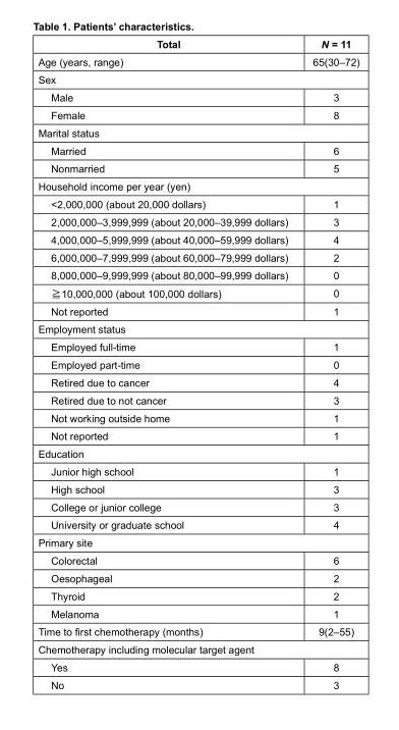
<table><thead><tr><td>Total</td><td>N = 11</td></tr></thead><tbody><tr><td>Age (years, range)</td><td>65(30–72)</td></tr><tr><td colspan="2">Sex</td></tr><tr><td>Male</td><td>3</td></tr><tr><td>Female</td><td>8</td></tr><tr><td colspan="2">Marital status</td></tr><tr><td>Married</td><td>6</td></tr><tr><td>Nonmarried</td><td>5</td></tr><tr><td colspan="2">Household income per year (yen)</td></tr><tr><td>&lt;2,000,000 (about 20,000 dollars)</td><td>1</td></tr><tr><td>2,000,000–3,999,999 (about 20,000–39,999 dollars)</td><td>3</td></tr><tr><td>4,000,000–5,999,999 (about 40,000–59,999 dollars)</td><td>4</td></tr><tr><td>6,000,000–7,999,999 (about 60,000–79,999 dollars)</td><td>2</td></tr><tr><td>8,000,000–9,999,999 (about 80,000–99,999 dollars)</td><td>0</td></tr><tr><td>≧10,000,000 (about 100,000 dollars)</td><td>0</td></tr><tr><td>Not reported</td><td>1</td></tr><tr><td colspan="2">Employment status</td></tr><tr><td>Employed full-time</td><td>1</td></tr><tr><td>Employed part-time</td><td>0</td></tr><tr><td>Retired due to cancer</td><td>4</td></tr><tr><td>Retired due to not cancer</td><td>3</td></tr><tr><td>Not working outside home</td><td>1</td></tr><tr><td>Not reported</td><td>1</td></tr><tr><td colspan="2">Education</td></tr><tr><td>Junior high school</td><td>1</td></tr><tr><td>High school</td><td>3</td></tr><tr><td>College or junior college</td><td>3</td></tr><tr><td>University or graduate school</td><td>4</td></tr><tr><td colspan="2">Primary site</td></tr><tr><td>Colorectal</td><td>6</td></tr><tr><td>Oesophageal</td><td>2</td></tr><tr><td>Thyroid</td><td>2</td></tr><tr><td>Melanoma</td><td>1</td></tr><tr><td>Time to first chemotherapy (months)</td><td>9(2–55)</td></tr><tr><td colspan="2">Chemotherapy including molecular target agent</td></tr><tr><td>Yes</td><td>8</td></tr><tr><td>No</td><td>3</td></tr></tbody></table>